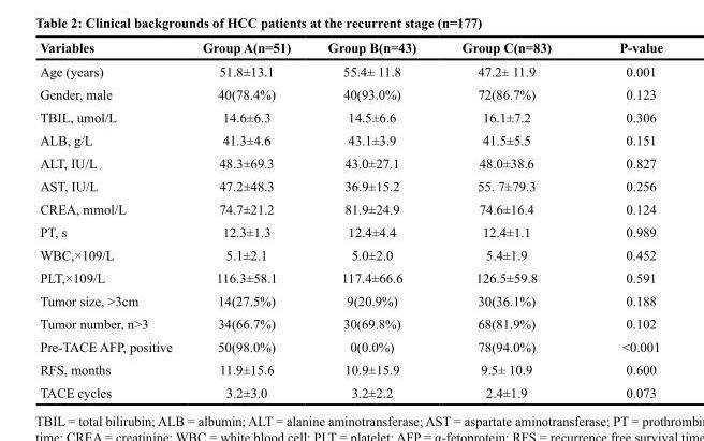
<table><thead><tr><td>Variables</td><td>Group A(n=51)</td><td>Group B(n=43)</td><td>Group C(n=83)</td><td>P-value</td></tr></thead><tbody><tr><td>Age (years)</td><td>51.8±13.1</td><td>55.4± 11.8</td><td>47.2± 11.9</td><td>0.001</td></tr><tr><td>Gender, male</td><td>40(78.4%)</td><td>40(93.0%)</td><td>72(86.7%)</td><td>0.123</td></tr><tr><td>TBIL, umol/L</td><td>14.6±6.3</td><td>14.5±6.6</td><td>16.1±7.2</td><td>0.306</td></tr><tr><td>ALB, g/L</td><td>41.3±4.6</td><td>43.1±3.9</td><td>41.5±5.5</td><td>0.151</td></tr><tr><td>ALT, IU/L</td><td>48.3±69.3</td><td>43.0±27.1</td><td>48.0±38.6</td><td>0.827</td></tr><tr><td>AST, IU/L</td><td>47.2±48.3</td><td>36.9±15.2</td><td>55. 7±79.3</td><td>0.256</td></tr><tr><td>CREA, mmol/L</td><td>74.7±21.2</td><td>81.9±24.9</td><td>74.6±16.4</td><td>0.124</td></tr><tr><td>PT, s</td><td>12.3±1.3</td><td>12.4±4.4</td><td>12.4±1.1</td><td>0.989</td></tr><tr><td>WBC,×109/L</td><td>5.1±2.1</td><td>5.0±2.0</td><td>5.4±1.9</td><td>0.452</td></tr><tr><td>PLT,×109/L</td><td>116.3±58.1</td><td>117.4±66.6</td><td>126.5±59.8</td><td>0.591</td></tr><tr><td>Tumor size, &gt;3cm</td><td>14(27.5%)</td><td>9(20.9%)</td><td>30(36.1%)</td><td>0.188</td></tr><tr><td>Tumor number, n&gt;3</td><td>34(66.7%)</td><td>30(69.8%)</td><td>68(81.9%)</td><td>0.102</td></tr><tr><td>Pre-TACE AFP, positive</td><td>50(98.0%)</td><td>0(0.0%)</td><td>78(94.0%)</td><td>&lt;0.001</td></tr><tr><td>RFS, months</td><td>11.9±15.6</td><td>10.9±15.9</td><td>9.5± 10.9</td><td>0.600</td></tr><tr><td>TACE cycles</td><td>3.2±3.0</td><td>3.2±2.2</td><td>2.4±1.9</td><td>0.073</td></tr></tbody></table>